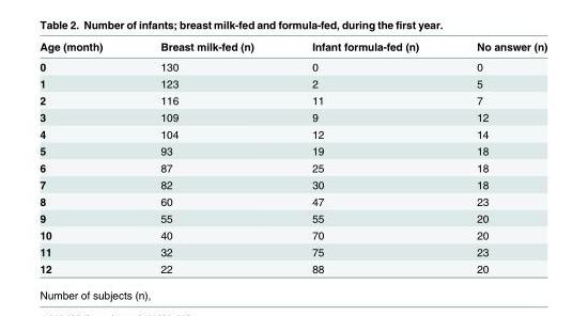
<table><thead><tr><td>Age (month)</td><td>Breast milk-fed (n)</td><td>Infant formula-fed (n)</td><td>No answer (n)</td></tr></thead><tbody><tr><td>0</td><td>130</td><td>0</td><td>0</td></tr><tr><td>1</td><td>123</td><td>2</td><td>5</td></tr><tr><td>2</td><td>116</td><td>11</td><td>7</td></tr><tr><td>3</td><td>109</td><td>9</td><td>12</td></tr><tr><td>4</td><td>104</td><td>12</td><td>14</td></tr><tr><td>5</td><td>93</td><td>19</td><td>18</td></tr><tr><td>6</td><td>87</td><td>25</td><td>18</td></tr><tr><td>7</td><td>82</td><td>30</td><td>18</td></tr><tr><td>8</td><td>60</td><td>47</td><td>23</td></tr><tr><td>9</td><td>55</td><td>55</td><td>20</td></tr><tr><td>10</td><td>40</td><td>70</td><td>20</td></tr><tr><td>11</td><td>32</td><td>75</td><td>23</td></tr><tr><td>12</td><td>22</td><td>88</td><td>20</td></tr></tbody></table>